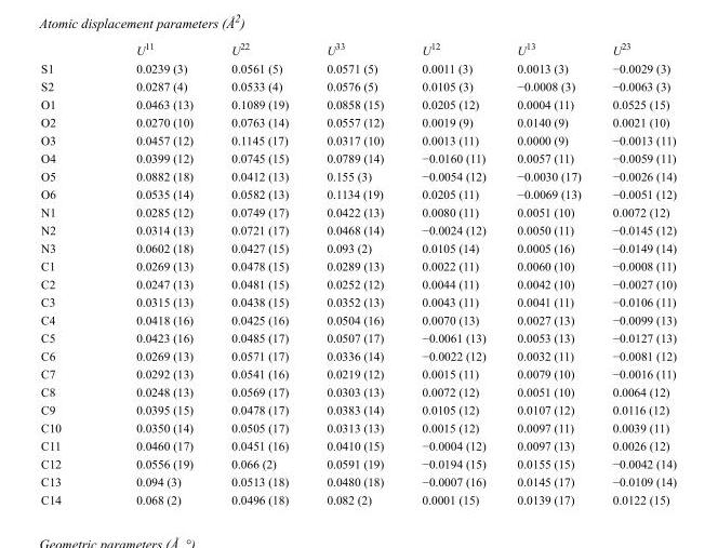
<table><thead><tr><td></td><td>U<sup>11</sup></td><td>U<sup>22</sup></td><td>U<sup>33</sup></td><td>U<sup>12</sup></td><td>U<sup>13</sup></td><td>U<sup>23</sup></td></tr></thead><tbody><tr><td>S1</td><td>0.0239 (3)</td><td>0.0561 (5)</td><td>0.0571 (5)</td><td>0.0011 (3)</td><td>0.0013 (3)</td><td>−0.0029 (3)</td></tr><tr><td>S2</td><td>0.0287 (4)</td><td>0.0533 (4)</td><td>0.0576 (5)</td><td>0.0105 (3)</td><td>−0.0008 (3)</td><td>−0.0063 (3)</td></tr><tr><td>O1</td><td>0.0463 (13)</td><td>0.1089 (19)</td><td>0.0858 (15)</td><td>0.0205 (12)</td><td>0.0004 (11)</td><td>0.0525 (15)</td></tr><tr><td>O2</td><td>0.0270 (10)</td><td>0.0763 (14)</td><td>0.0557 (12)</td><td>0.0019 (9)</td><td>0.0140 (9)</td><td>0.0021 (10)</td></tr><tr><td>O3</td><td>0.0457 (12)</td><td>0.1145 (17)</td><td>0.0317 (10)</td><td>0.0013 (11)</td><td>0.0000 (9)</td><td>−0.0013 (11)</td></tr><tr><td>O4</td><td>0.0399 (12)</td><td>0.0745 (15)</td><td>0.0789 (14)</td><td>−0.0160 (11)</td><td>0.0057 (11)</td><td>−0.0059 (11)</td></tr><tr><td>O5</td><td>0.0882 (18)</td><td>0.0412 (13)</td><td>0.155 (3)</td><td>−0.0054 (12)</td><td>−0.0030 (17)</td><td>−0.0026 (14)</td></tr><tr><td>O6</td><td>0.0535 (14)</td><td>0.0582 (13)</td><td>0.1134 (19)</td><td>0.0205 (11)</td><td>−0.0069 (13)</td><td>−0.0051 (12)</td></tr><tr><td>N1</td><td>0.0285 (12)</td><td>0.0749 (17)</td><td>0.0422 (13)</td><td>0.0080 (11)</td><td>0.0051 (10)</td><td>0.0072 (12)</td></tr><tr><td>N2</td><td>0.0314 (13)</td><td>0.0721 (17)</td><td>0.0468 (14)</td><td>−0.0024 (12)</td><td>0.0050 (11)</td><td>−0.0145 (12)</td></tr><tr><td>N3</td><td>0.0602 (18)</td><td>0.0427 (15)</td><td>0.093 (2)</td><td>0.0105 (14)</td><td>0.0005 (16)</td><td>−0.0149 (14)</td></tr><tr><td>C1</td><td>0.0269 (13)</td><td>0.0478 (15)</td><td>0.0289 (13)</td><td>0.0022 (11)</td><td>0.0060 (10)</td><td>−0.0008 (11)</td></tr><tr><td>C2</td><td>0.0247 (13)</td><td>0.0481 (15)</td><td>0.0252 (12)</td><td>0.0044 (11)</td><td>0.0042 (10)</td><td>−0.0027 (10)</td></tr><tr><td>C3</td><td>0.0315 (13)</td><td>0.0438 (15)</td><td>0.0352 (13)</td><td>0.0043 (11)</td><td>0.0041 (11)</td><td>−0.0106 (11)</td></tr><tr><td>C4</td><td>0.0418 (16)</td><td>0.0425 (16)</td><td>0.0504 (16)</td><td>0.0070 (13)</td><td>0.0027 (13)</td><td>−0.0099 (13)</td></tr><tr><td>C5</td><td>0.0423 (16)</td><td>0.0485 (17)</td><td>0.0507 (17)</td><td>−0.0061 (13)</td><td>0.0053 (13)</td><td>−0.0127 (13)</td></tr><tr><td>C6</td><td>0.0269 (13)</td><td>0.0571 (17)</td><td>0.0336 (14)</td><td>−0.0022 (12)</td><td>0.0032 (11)</td><td>−0.0081 (12)</td></tr><tr><td>C7</td><td>0.0292 (13)</td><td>0.0541 (16)</td><td>0.0219 (12)</td><td>0.0015 (11)</td><td>0.0079 (10)</td><td>−0.0016 (11)</td></tr><tr><td>C8</td><td>0.0248 (13)</td><td>0.0569 (17)</td><td>0.0303 (13)</td><td>0.0072 (12)</td><td>0.0051 (10)</td><td>0.0064 (12)</td></tr><tr><td>C9</td><td>0.0395 (15)</td><td>0.0478 (17)</td><td>0.0383 (14)</td><td>0.0105 (12)</td><td>0.0107 (12)</td><td>0.0116 (12)</td></tr><tr><td>C10</td><td>0.0350 (14)</td><td>0.0505 (17)</td><td>0.0313 (13)</td><td>0.0015 (12)</td><td>0.0097 (11)</td><td>0.0039 (11)</td></tr><tr><td>C11</td><td>0.0460 (17)</td><td>0.0451 (16)</td><td>0.0410 (15)</td><td>−0.0004 (12)</td><td>0.0097 (13)</td><td>0.0026 (12)</td></tr><tr><td>C12</td><td>0.0556 (19)</td><td>0.066 (2)</td><td>0.0591 (19)</td><td>−0.0194 (15)</td><td>0.0155 (15)</td><td>−0.0042 (14)</td></tr><tr><td>C13</td><td>0.094 (3)</td><td>0.0513 (18)</td><td>0.0480 (18)</td><td>−0.0007 (16)</td><td>0.0145 (17)</td><td>−0.0109 (14)</td></tr><tr><td>C14</td><td>0.068 (2)</td><td>0.0496 (18)</td><td>0.082 (2)</td><td>0.0001 (15)</td><td>0.0139 (17)</td><td>0.0122 (15)</td></tr></tbody></table>